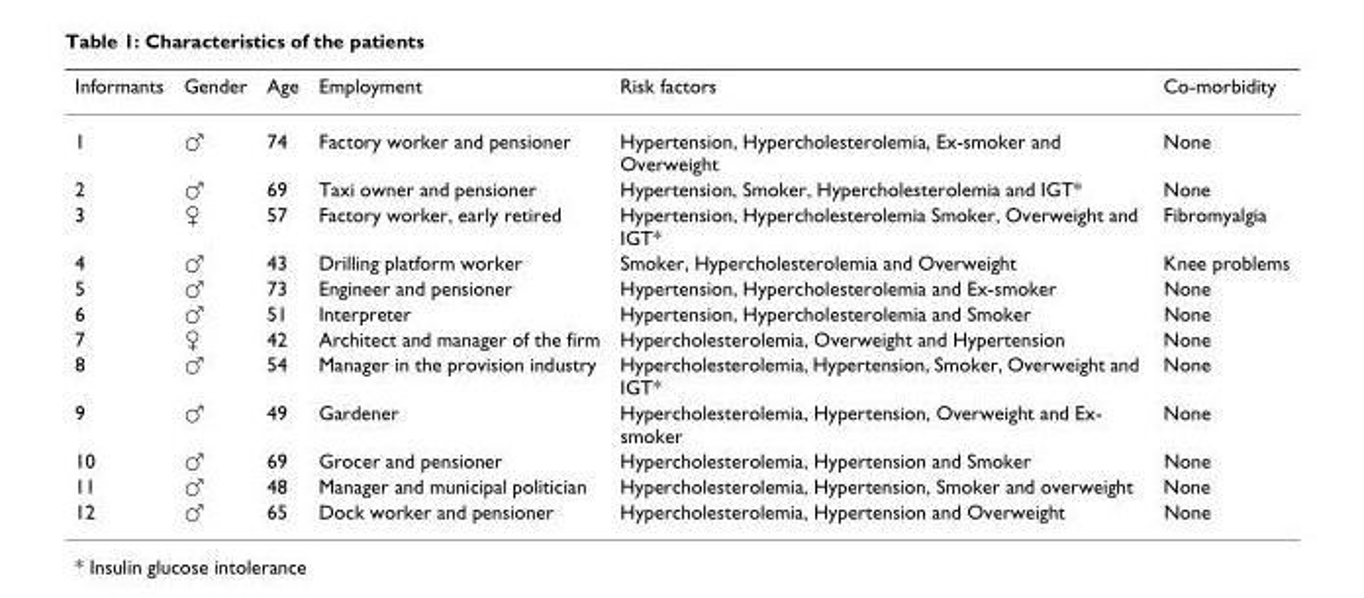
<table><thead><tr><td>Informants</td><td>Gender</td><td>Age</td><td>Employment</td><td>Risk factors</td><td>Co-morbidity</td></tr></thead><tbody><tr><td>1</td><td>♂</td><td>74</td><td>Factory worker and pensioner</td><td>Hypertension, Hypercholesterolemia, Ex-smoker and Overweight</td><td>None</td></tr><tr><td>2</td><td>♂</td><td>69</td><td>Taxi owner and pensioner</td><td>Hypertension, Smoker, Hypercholesterolemia and IGT*</td><td>None</td></tr><tr><td>3</td><td>♀</td><td>57</td><td>Factory worker, early retired</td><td>Hypertension, Hypercholesterolemia Smoker, Overweight and IGT*</td><td>Fibromyalgia</td></tr><tr><td>4</td><td>♂</td><td>43</td><td>Drilling platform worker</td><td>Smoker, Hypercholesterolemia and Overweight</td><td>Knee problems</td></tr><tr><td>5</td><td>♂</td><td>73</td><td>Engineer and pensioner</td><td>Hypertension, Hypercholesterolemia and Ex-smoker</td><td>None</td></tr><tr><td>6</td><td>♂</td><td>51</td><td>Interpreter</td><td>Hypertension, Hypercholesterolemia and Smoker</td><td>None</td></tr><tr><td>7</td><td>♀</td><td>42</td><td>Architect and manager of the firm</td><td>Hypercholesterolemia, Overweight and Hypertension</td><td>None</td></tr><tr><td>8</td><td>♂</td><td>54</td><td>Manager in the provision industry</td><td>Hypercholesterolemia, Hypertension, Smoker, Overweight and IGT*</td><td>None</td></tr><tr><td>9</td><td>♂</td><td>49</td><td>Gardener</td><td>Hypercholesterolemia, Hypertension, Overweight and Ex- smoker</td><td>None</td></tr><tr><td>10</td><td>♂</td><td>69</td><td>Grocer and pensioner</td><td>Hypercholesterolemia, Hypertension and Smoker</td><td>None</td></tr><tr><td>11</td><td>♂</td><td>48</td><td>Manager and municipal politician</td><td>Hypercholesterolemia, Hypertension, Smoker and overweight</td><td>None</td></tr><tr><td>12</td><td>♂</td><td>65</td><td>Dock worker and pensioner</td><td>Hypercholesterolemia, Hypertension and Overweight</td><td>None</td></tr></tbody></table>